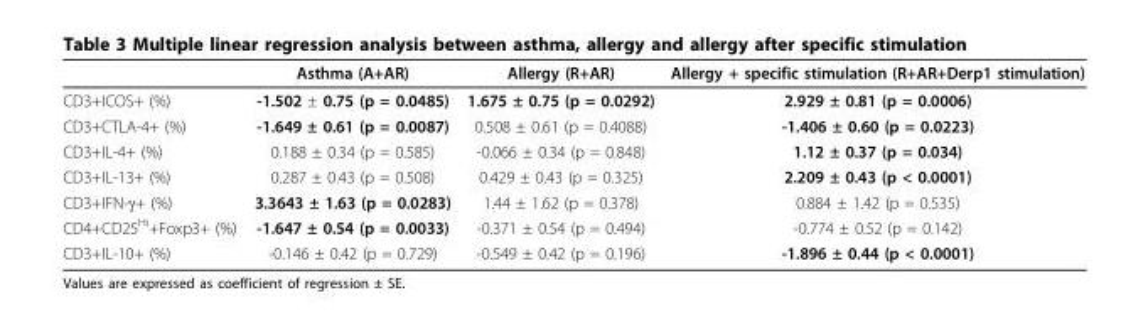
<table><thead><tr><td></td><td>Asthma (A+AR)</td><td>Allergy (R+AR)</td><td>Allergy + specific stimulation (R+AR+Derp1 stimulation)</td></tr></thead><tbody><tr><td>CD3+ICOS+ (%)</td><td>-1.502 ± 0.75 (p = 0.0485)</td><td>1.675 ± 0.75 (p = 0.0292)</td><td>2.929 ± 0.81 (p = 0.0006)</td></tr><tr><td>CD3+CTLA-4+ (%)</td><td>-1.649 ± 0.61 (p = 0.0087)</td><td>0.508 ± 0.61 (p = 0.4088)</td><td>-1.406 ± 0.60 (p = 0.0223)</td></tr><tr><td>CD3+IL-4+ (%)</td><td>0.188 ± 0.34 (p = 0.585)</td><td>-0.066 ± 0.34 (p = 0.848)</td><td>1.12 ± 0.37 (p = 0.034)</td></tr><tr><td>CD3+IL-13+ (%)</td><td>0.287 ± 0.43 (p = 0.508)</td><td>0.429 ± 0.43 (p = 0.325)</td><td>2.209 ± 0.43 (p &lt; 0.0001)</td></tr><tr><td>CD3+IFN-γ+ (%)</td><td>3.3643 ± 1.63 (p = 0.0283)</td><td>1.44 ± 1.62 (p = 0.378)</td><td>0.884 ± 1.42 (p = 0.535)</td></tr><tr><td>CD4+CD25<sup>Hi</sup>+Foxp3+ (%)</td><td>-1.647 ± 0.54 (p = 0.0033)</td><td>-0.371 ± 0.54 (p = 0.494)</td><td>-0.774 ± 0.52 (p = 0.142)</td></tr><tr><td>CD3+IL-10+ (%)</td><td>-0.146 ± 0.42 (p = 0.729)</td><td>-0.549 ± 0.42 (p = 0.196)</td><td>-1.896 ± 0.44 (p &lt; 0.0001)</td></tr></tbody></table>